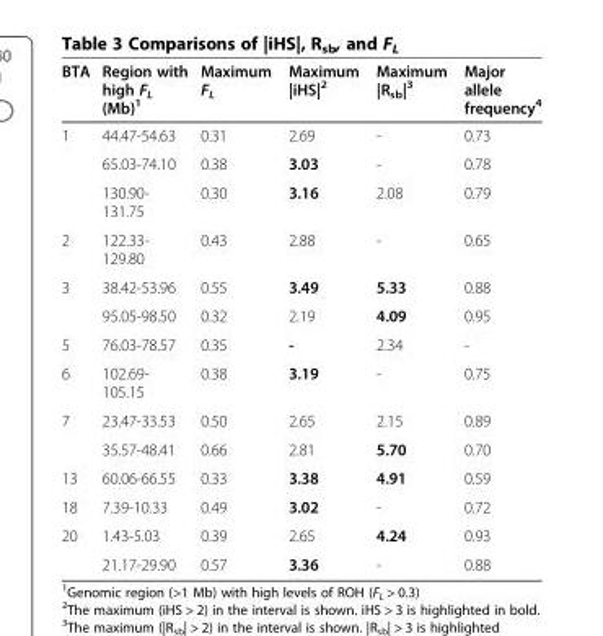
<table><thead><tr><td>BTA</td><td>Region with high F<sub>L</sub> (Mb)<sup>1</sup></td><td>Maximum F<sub>L</sub></td><td>Maximum |iHS|<sup>2</sup></td><td>Maximum |R<sub>sb</sub>|<sup>3</sup></td><td>Major allele frequency<sup>4</sup></td></tr></thead><tbody><tr><td rowspan="3">1</td><td>44.47-54.63</td><td>0.31</td><td>2.69</td><td>-</td><td>0.73</td></tr><tr><td>65.03-74.10</td><td>0.38</td><td>3.03</td><td>-</td><td>0.78</td></tr><tr><td>130.90- 131.75</td><td>0.30</td><td>3.16</td><td>2.08</td><td>0.79</td></tr><tr><td>2</td><td>122.33- 129.80</td><td>0.43</td><td>2.88</td><td>-</td><td>0.65</td></tr><tr><td rowspan="2">3</td><td>38.42-53.96</td><td>0.55</td><td>3.49</td><td>5.33</td><td>0.88</td></tr><tr><td>95.05-98.50</td><td>0.32</td><td>2.19</td><td>4.09</td><td>0.95</td></tr><tr><td>5</td><td>76.03-78.57</td><td>0.35</td><td>-</td><td>2.34</td><td>-</td></tr><tr><td>6</td><td>102.69- 105.15</td><td>0.38</td><td>3.19</td><td>-</td><td>0.75</td></tr><tr><td rowspan="2">7</td><td>23.47-33.53</td><td>0.50</td><td>2.65</td><td>2.15</td><td>0.89</td></tr><tr><td>35.57-48.41</td><td>0.66</td><td>2.81</td><td>5.70</td><td>0.70</td></tr><tr><td>13</td><td>60.06-66.55</td><td>0.33</td><td>3.38</td><td>4.91</td><td>0.59</td></tr><tr><td>18</td><td>7.39-10.33</td><td>0.49</td><td>3.02</td><td>-</td><td>0.72</td></tr><tr><td rowspan="2">20</td><td>1.43-5.03</td><td>0.39</td><td>2.65</td><td>4.24</td><td>0.93</td></tr><tr><td>21.17-29.90</td><td>0.57</td><td>3.36</td><td>-</td><td>0.88</td></tr></tbody></table>